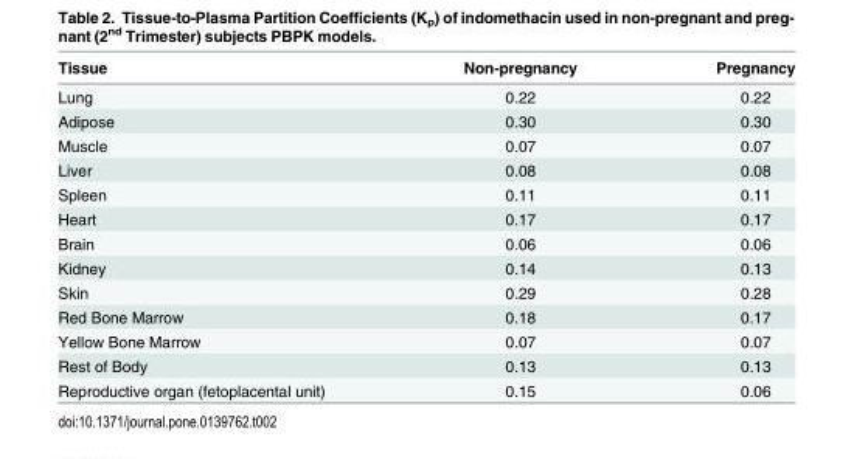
<table><thead><tr><td>Tissue</td><td>Non-pregnancy</td><td>Pregnancy</td></tr></thead><tbody><tr><td>Lung</td><td>0.22</td><td>0.22</td></tr><tr><td>Adipose</td><td>0.30</td><td>0.30</td></tr><tr><td>Muscle</td><td>0.07</td><td>0.07</td></tr><tr><td>Liver</td><td>0.08</td><td>0.08</td></tr><tr><td>Spleen</td><td>0.11</td><td>0.11</td></tr><tr><td>Heart</td><td>0.17</td><td>0.17</td></tr><tr><td>Brain</td><td>0.06</td><td>0.06</td></tr><tr><td>Kidney</td><td>0.14</td><td>0.13</td></tr><tr><td>Skin</td><td>0.29</td><td>0.28</td></tr><tr><td>Red Bone Marrow</td><td>0.18</td><td>0.17</td></tr><tr><td>Yellow Bone Marrow</td><td>0.07</td><td>0.07</td></tr><tr><td>Rest of Body</td><td>0.13</td><td>0.13</td></tr><tr><td>Reproductive organ (fetoplacental unit)</td><td>0.15</td><td>0.06</td></tr></tbody></table>